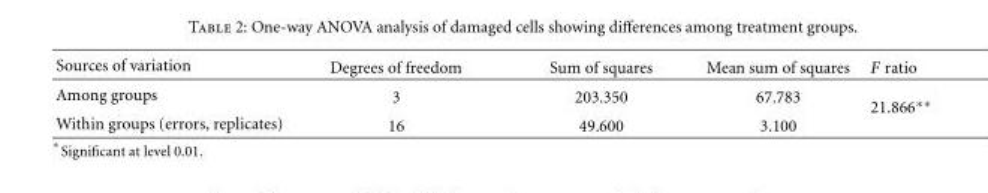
<table><thead><tr><td>Sources of variation</td><td>Degrees of freedom</td><td>Sum of squares</td><td>Mean sum of squares</td><td>F ratio</td></tr></thead><tbody><tr><td>Among groups</td><td>3</td><td>203.350</td><td>67.783</td><td rowspan="2">21.866∗∗</td></tr><tr><td>Within groups (errors, replicates)</td><td>16</td><td>49.600</td><td>3.100</td></tr></tbody></table>